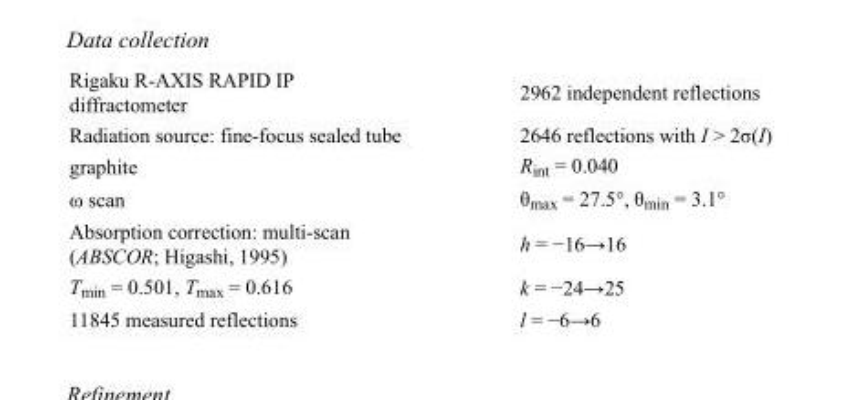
<table><tbody><tr><td>Rigaku R-AXIS RAPID IP diffractometer</td><td>2962 independent reflections</td></tr><tr><td>Radiation source: fine-focus sealed tube</td><td>2646 reflections with I &gt; 2σ(I)</td></tr><tr><td>graphite</td><td>R<sub>int</sub> = 0.040</td></tr><tr><td>ω scan</td><td>θ<sub>max</sub> = 27.5°, θ<sub>min</sub> = 3.1°</td></tr><tr><td>Absorption correction: multi-scan (ABSCOR; Higashi, 1995)</td><td>h = −16→16</td></tr><tr><td>T<sub>min</sub> = 0.501, T<sub>max</sub> = 0.616</td><td>k = −24→25</td></tr><tr><td>11845 measured reflections</td><td>l = −6→6</td></tr></tbody></table>